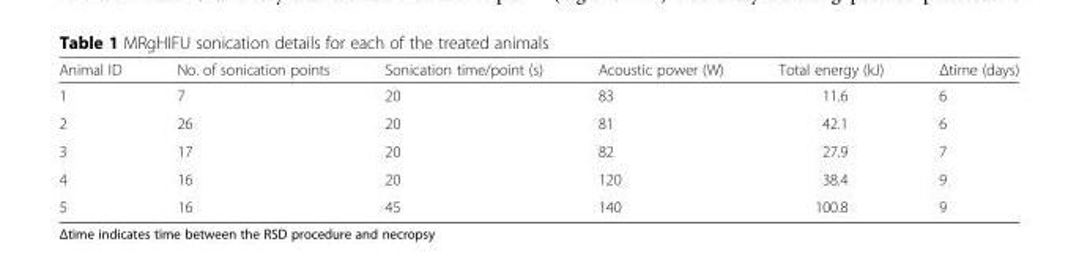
<table><thead><tr><td>Animal ID</td><td>No. of sonication points</td><td>Sonication time/point (s)</td><td>Acoustic power (W)</td><td>Total energy (kJ)</td><td>Δtime (days)</td></tr></thead><tbody><tr><td>1</td><td>7</td><td>20</td><td>83</td><td>11.6</td><td>6</td></tr><tr><td>2</td><td>26</td><td>20</td><td>81</td><td>42.1</td><td>6</td></tr><tr><td>3</td><td>17</td><td>20</td><td>82</td><td>27.9</td><td>7</td></tr><tr><td>4</td><td>16</td><td>20</td><td>120</td><td>38.4</td><td>9</td></tr><tr><td>5</td><td>16</td><td>45</td><td>140</td><td>100.8</td><td>9</td></tr></tbody></table>